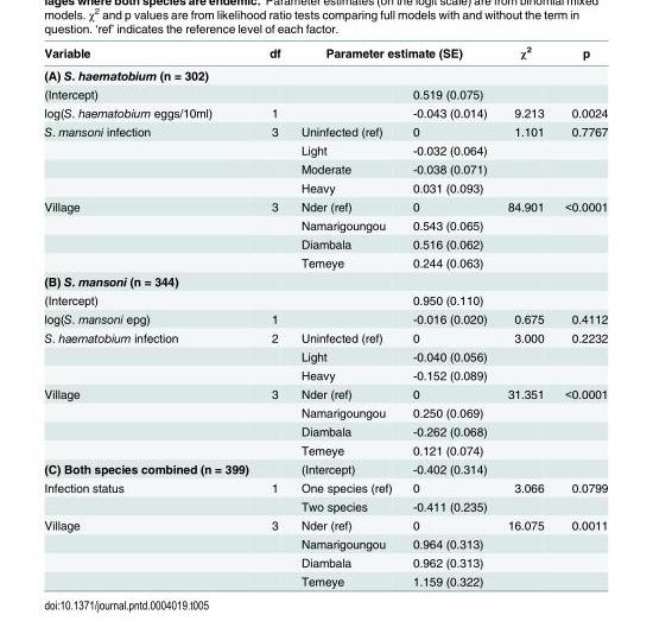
<table><thead><tr><td rowspan="2">Variable (A) S. haematobium (n = 302)</td><td rowspan="2">df</td><td colspan="2">Parameter estimate (SE)</td><td rowspan="2">χ<sup>2</sup></td><td rowspan="2">p</td></tr><tr><td></td><td></td></tr></thead><tbody><tr><td>(Intercept)</td><td></td><td></td><td>0.519 (0.075)</td><td></td><td></td></tr><tr><td>log(S. haematobium eggs/10ml)</td><td>1</td><td></td><td>-0.043 (0.014)</td><td>9.213</td><td>0.0024</td></tr><tr><td rowspan="4">S. mansoni infection</td><td>3</td><td>Uninfected (ref)</td><td>0</td><td>1.101</td><td>0.7767</td></tr><tr><td></td><td>Light</td><td>-0.032 (0.064)</td><td></td><td></td></tr><tr><td></td><td>Moderate</td><td>-0.038 (0.071)</td><td></td><td></td></tr><tr><td></td><td>Heavy</td><td>0.031 (0.093)</td><td></td><td></td></tr><tr><td rowspan="4">Village</td><td>3</td><td>Nder (ref)</td><td>0</td><td>84.901</td><td>&lt;0.0001</td></tr><tr><td></td><td>Namarigoungou</td><td>0.543 (0.065)</td><td></td><td></td></tr><tr><td></td><td>Diambala</td><td>0.516 (0.062)</td><td></td><td></td></tr><tr><td></td><td>Temeye</td><td>0.244 (0.063)</td><td></td><td></td></tr><tr><td colspan="6">(B) S. mansoni (n = 344)</td></tr><tr><td>(Intercept)</td><td></td><td></td><td>0.950 (0.110)</td><td></td><td></td></tr><tr><td>log(S. mansoni epg)</td><td>1</td><td></td><td>-0.016 (0.020)</td><td>0.675</td><td>0.4112</td></tr><tr><td rowspan="3">S. haematobium infection</td><td>2</td><td>Uninfected (ref)</td><td>0</td><td>3.000</td><td>0.2232</td></tr><tr><td></td><td>Light</td><td>-0.040 (0.056)</td><td></td><td></td></tr><tr><td></td><td>Heavy</td><td>-0.152 (0.089)</td><td></td><td></td></tr><tr><td rowspan="4">Village</td><td>3</td><td>Nder (ref)</td><td>0</td><td>31.351</td><td>&lt;0.0001</td></tr><tr><td></td><td>Namarigoungou</td><td>0.250 (0.069)</td><td></td><td></td></tr><tr><td></td><td>Diambala</td><td>-0.262 (0.068)</td><td></td><td></td></tr><tr><td></td><td>Temeye</td><td>0.121 (0.074)</td><td></td><td></td></tr><tr><td>(C) Both species combined (n = 399)</td><td></td><td>(Intercept)</td><td>-0.402 (0.314)</td><td></td><td></td></tr><tr><td rowspan="2">Infection status</td><td>1</td><td>One species (ref)</td><td>0</td><td>3.066</td><td>0.0799</td></tr><tr><td></td><td>Two species</td><td>-0.411 (0.235)</td><td></td><td></td></tr><tr><td rowspan="4">Village</td><td>3</td><td>Nder (ref)</td><td>0</td><td>16.075</td><td>0.0011</td></tr><tr><td></td><td>Namarigoungou</td><td>0.964 (0.313)</td><td></td><td></td></tr><tr><td></td><td>Diambala</td><td>0.962 (0.313)</td><td></td><td></td></tr><tr><td></td><td>Temeye</td><td>1.159 (0.322)</td><td></td><td></td></tr></tbody></table>